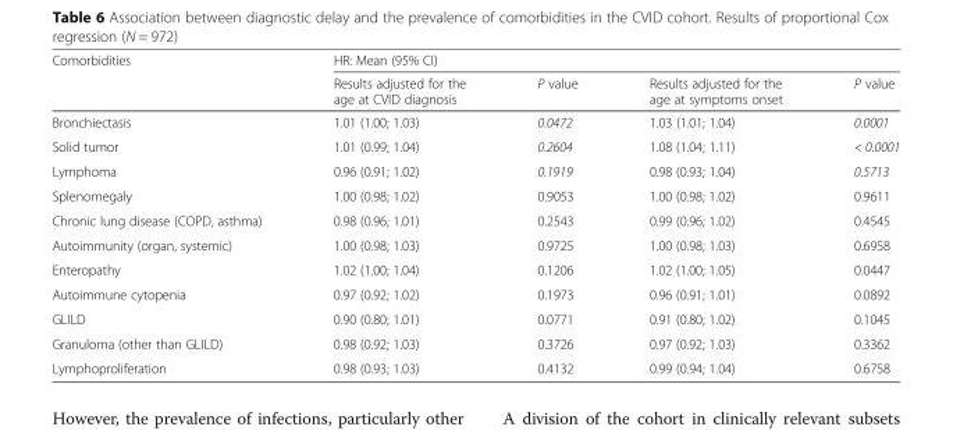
<table><thead><tr><td rowspan="2">Comorbidities</td><td colspan="4">HR: Mean (95% CI)</td></tr><tr><td>Results adjusted for the age at CVID diagnosis</td><td>P value</td><td>Results adjusted for the age at symptoms onset</td><td>P value</td></tr></thead><tbody><tr><td>Bronchiectasis</td><td>1.01 (1.00; 1.03)</td><td>0.0472</td><td>1.03 (1.01; 1.04)</td><td>0.0001</td></tr><tr><td>Solid tumor</td><td>1.01 (0.99; 1.04)</td><td>0.2604</td><td>1.08 (1.04; 1.11)</td><td>&lt; 0.0001</td></tr><tr><td>Lymphoma</td><td>0.96 (0.91; 1.02)</td><td>0.1919</td><td>0.98 (0.93; 1.04)</td><td>0.5713</td></tr><tr><td>Splenomegaly</td><td>1.00 (0.98; 1.02)</td><td>0.9053</td><td>1.00 (0.98; 1.02)</td><td>0.9611</td></tr><tr><td>Chronic lung disease (COPD, asthma)</td><td>0.98 (0.96; 1.01)</td><td>0.2543</td><td>0.99 (0.96; 1.02)</td><td>0.4545</td></tr><tr><td>Autoimmunity (organ, systemic)</td><td>1.00 (0.98; 1.03)</td><td>0.9725</td><td>1.00 (0.98; 1.03)</td><td>0.6958</td></tr><tr><td>Enteropathy</td><td>1.02 (1.00; 1.04)</td><td>0.1206</td><td>1.02 (1.00; 1.05)</td><td>0.0447</td></tr><tr><td>Autoimmune cytopenia</td><td>0.97 (0.92; 1.02)</td><td>0.1973</td><td>0.96 (0.91; 1.01)</td><td>0.0892</td></tr><tr><td>GLILD</td><td>0.90 (0.80; 1.01)</td><td>0.0771</td><td>0.91 (0.80; 1.02)</td><td>0.1045</td></tr><tr><td>Granuloma (other than GLILD)</td><td>0.98 (0.92; 1.03)</td><td>0.3726</td><td>0.97 (0.92; 1.03)</td><td>0.3362</td></tr><tr><td>Lymphoproliferation</td><td>0.98 (0.93; 1.03)</td><td>0.4132</td><td>0.99 (0.94; 1.04)</td><td>0.6758</td></tr></tbody></table>